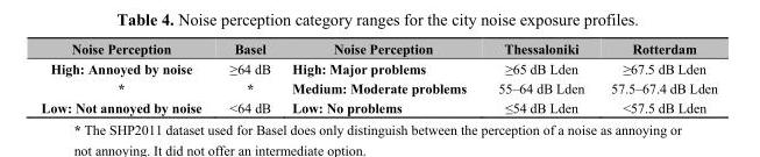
<table><thead><tr><td>Noise Perception</td><td>Basel</td><td>Noise Perception</td><td>Thessaloniki</td><td>Rotterdam</td></tr></thead><tbody><tr><td>High: Annoyed by noise</td><td>≥64 dB</td><td>High: Major problems</td><td>≥65 dB Lden</td><td>≥67.5 dB Lden</td></tr><tr><td>*</td><td>*</td><td>Medium: Moderate problems</td><td>55‒64 dB Lden</td><td>57.5‒67.4 dB Lden</td></tr><tr><td>Low: Not annoyed by noise</td><td>&lt;64 dB</td><td>Low: No problems</td><td>≤54 dB Lden</td><td>&lt;57.5 dB Lden</td></tr></tbody></table>